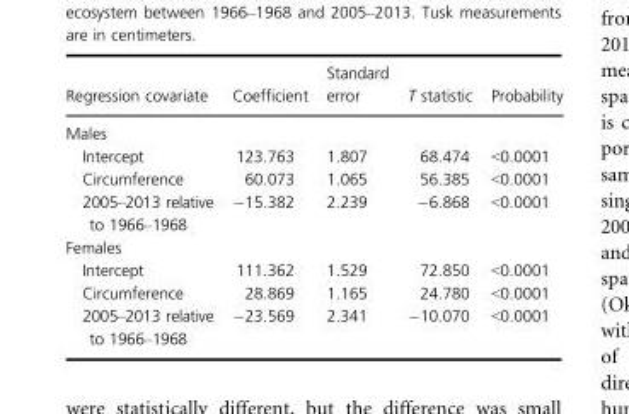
<table><thead><tr><td>Regression covariate</td><td>Coefficient</td><td>Standard error</td><td>T statistic</td><td>Probability</td></tr></thead><tbody><tr><td colspan="5">Males</td></tr><tr><td>Intercept</td><td>123.763</td><td>1.807</td><td>68.474</td><td>&lt;0.0001</td></tr><tr><td>Circumference</td><td>60.073</td><td>1.065</td><td>56.385</td><td>&lt;0.0001</td></tr><tr><td>2005–2013 relative to 1966–1968</td><td>−15.382</td><td>2.239</td><td>−6.868</td><td>&lt;0.0001</td></tr><tr><td colspan="5">Females</td></tr><tr><td>Intercept</td><td>111.362</td><td>1.529</td><td>72.850</td><td>&lt;0.0001</td></tr><tr><td>Circumference</td><td>28.869</td><td>1.165</td><td>24.780</td><td>&lt;0.0001</td></tr><tr><td>2005–2013 relative to 1966–1968</td><td>−23.569</td><td>2.341</td><td>−10.070</td><td>&lt;0.0001</td></tr></tbody></table>